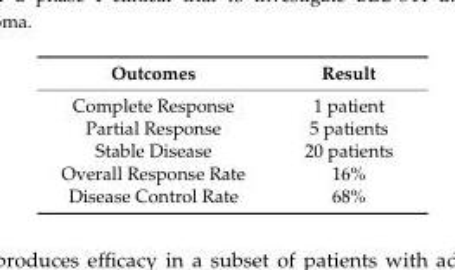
<table><thead><tr><td>Outcomes</td><td>Result</td></tr></thead><tbody><tr><td>Complete Response</td><td>1 patient</td></tr><tr><td>Partial Response</td><td>5 patients</td></tr><tr><td>Stable Disease</td><td>20 patients</td></tr><tr><td>Overall Response Rate</td><td>16%</td></tr><tr><td>Disease Control Rate</td><td>68%</td></tr></tbody></table>